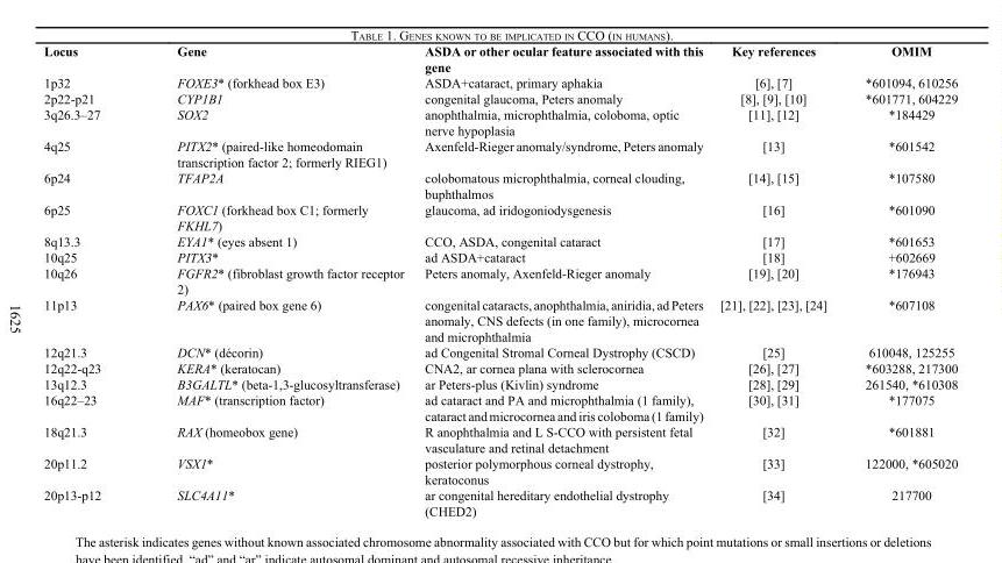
<table><thead><tr><td>Locus</td><td>Gene</td><td>ASDA or other ocular feature associated with this gene</td><td>Key references</td><td>OMIM</td></tr></thead><tbody><tr><td>1p32</td><td>FOXE3* (forkhead box E3)</td><td>ASDA+cataract, primary aphakia</td><td>[6], [7]</td><td>*601094, 610256</td></tr><tr><td>2p22-p21</td><td>CYP1B1</td><td>congenital glaucoma, Peters anomaly</td><td>[8], [9], [10]</td><td>*601771, 604229</td></tr><tr><td>3q26.3–27</td><td>SOX2</td><td>anophthalmia, microphthalmia, coloboma, optic nerve hypoplasia</td><td>[11], [12]</td><td>*184429</td></tr><tr><td>4q25</td><td>PITX2* (paired-like homeodomain transcription factor 2; formerly RIEG1)</td><td>Axenfeld-Rieger anomaly/syndrome, Peters anomaly</td><td>[13]</td><td>*601542</td></tr><tr><td>6p24</td><td>TFAP2A</td><td>colobomatous microphthalmia, corneal clouding, buphthalmos</td><td>[14], [15]</td><td>*107580</td></tr><tr><td>6p25</td><td>FOXC1 (forkhead box C1; formerly FKHL7)</td><td>glaucoma, ad iridogoniodysgenesis</td><td>[16]</td><td>*601090</td></tr><tr><td>8q13.3</td><td>EYA1* (eyes absent 1)</td><td>CCO, ASDA, congenital cataract</td><td>[17]</td><td>*601653</td></tr><tr><td>10q25</td><td>PITX3*</td><td>ad ASDA+cataract</td><td>[18]</td><td>+602669</td></tr><tr><td>10q26</td><td>FGFR2* (fibroblast growth factor receptor 2)</td><td>Peters anomaly, Axenfeld-Rieger anomaly</td><td>[19], [20]</td><td>*176943</td></tr><tr><td>11p13</td><td>PAX6* (paired box gene 6)</td><td>congenital cataracts, anophthalmia, aniridia, ad Peters anomaly, CNS defects (in one family), microcornea and microphthalmia</td><td>[21], [22], [23], [24]</td><td>*607108</td></tr><tr><td>12q21.3</td><td>DCN* (décorin)</td><td>ad Congenital Stromal Corneal Dystrophy (CSCD)</td><td>[25]</td><td>610048, 125255</td></tr><tr><td>12q22-q23</td><td>KERA* (keratocan)</td><td>CNA2, ar cornea plana with sclerocornea</td><td>[26], [27]</td><td>*603288, 217300</td></tr><tr><td>13q12.3</td><td>B3GALTL* (beta-1,3-glucosyltransferase)</td><td>ar Peters-plus (Kivlin) syndrome</td><td>[28], [29]</td><td>261540, *610308</td></tr><tr><td>16q22–23</td><td>MAF* (transcription factor)</td><td>ad cataract and PA and microphthalmia (1 family), cataract and microcornea and iris coloboma (1 family)</td><td>[30], [31]</td><td>*177075</td></tr><tr><td>18q21.3</td><td>RAX (homeobox gene)</td><td>R anophthalmia and L S-CCO with persistent fetal vasculature and retinal detachment</td><td>[32]</td><td>*601881</td></tr><tr><td>20p11.2</td><td>VSX1*</td><td>posterior polymorphous corneal dystrophy, keratoconus</td><td>[33]</td><td>122000, *605020</td></tr><tr><td>20p13-p12</td><td>SLC4A11*</td><td>ar congenital hereditary endothelial dystrophy (CHED2)</td><td>[34]</td><td>217700</td></tr></tbody></table>